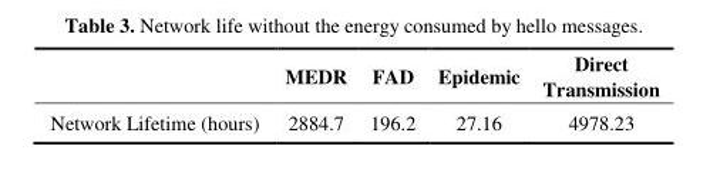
<table><thead><tr><td></td><td>MEDR</td><td>FAD</td><td>Epidemic</td><td>Direct Transmission</td></tr></thead><tbody><tr><td>Network Lifetime (hours)</td><td>2884.7</td><td>196.2</td><td>27.16</td><td>4978.23</td></tr></tbody></table>